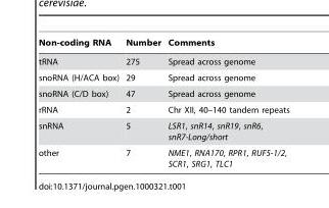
<table><thead><tr><td>Non-coding RNA</td><td>Number</td><td>Comments</td></tr></thead><tbody><tr><td>tRNA</td><td>275</td><td>Spread across genome</td></tr><tr><td>snoRNA (H/ACA box)</td><td>29</td><td>Spread across genome</td></tr><tr><td>snoRNA (C/D box)</td><td>47</td><td>Spread across genome</td></tr><tr><td>rRNA</td><td>2</td><td>Chr XII, 40–140 tandem repeats</td></tr><tr><td>snRNA</td><td>5</td><td>LSR1, snR14, snR19, snR6, snR7-Long/short</td></tr><tr><td>other</td><td>7</td><td>NME1, RNA170, RPR1, RUF5-1/2, SCR1, SRG1, TLC1</td></tr></tbody></table>